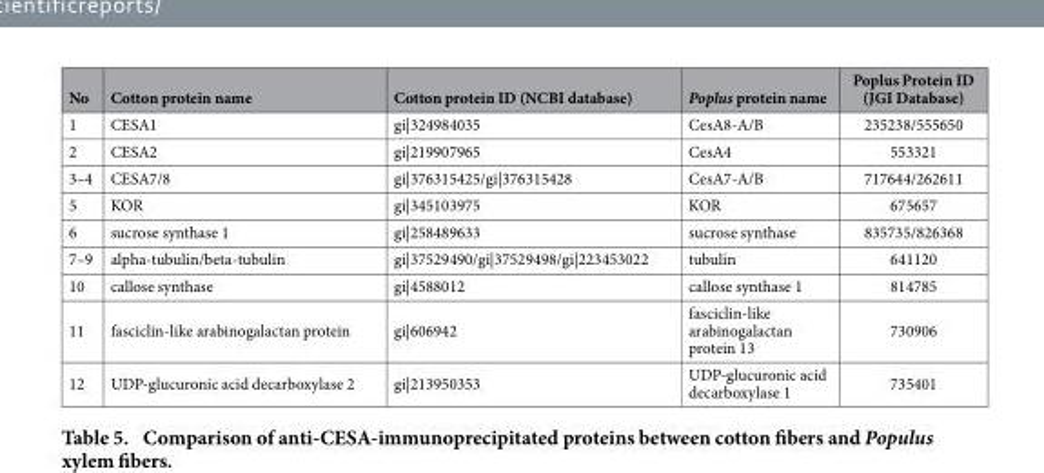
<table><thead><tr><td>No</td><td>Cotton protein name</td><td>Cotton protein ID (NCBI database)</td><td>Poplus protein name</td><td>Poplus Protein ID (JGI Database)</td></tr></thead><tbody><tr><td>1</td><td>CESA1</td><td>gi|324984035</td><td>CesA8-A/B</td><td>235238/555650</td></tr><tr><td>2</td><td>CESA2</td><td>gi|219907965</td><td>CesA4</td><td>553321</td></tr><tr><td>3–4</td><td>CESA7/8</td><td>gi|376315425/gi|376315428</td><td>CesA7-A/B</td><td>717644/262611</td></tr><tr><td>5</td><td>KOR</td><td>gi|345103975</td><td>KOR</td><td>675657</td></tr><tr><td>6</td><td>sucrose synthase 1</td><td>gi|258489633</td><td>sucrose synthase</td><td>835735/826368</td></tr><tr><td>7–9</td><td>alpha-tubulin/beta-tubulin</td><td>gi|37529490/gi|37529498/gi|223453022</td><td>tubulin</td><td>641120</td></tr><tr><td>10</td><td>callose synthase</td><td>gi|4588012</td><td>callose synthase 1</td><td>814785</td></tr><tr><td>11</td><td>fasciclin-like arabinogalactan protein</td><td>gi|606942</td><td>fasciclin-like arabinogalactan protein 13</td><td>730906</td></tr><tr><td>12</td><td>UDP-glucuronic acid decarboxylase 2</td><td>gi|213950353</td><td>UDP-glucuronic acid decarboxylase 1</td><td>735401</td></tr></tbody></table>